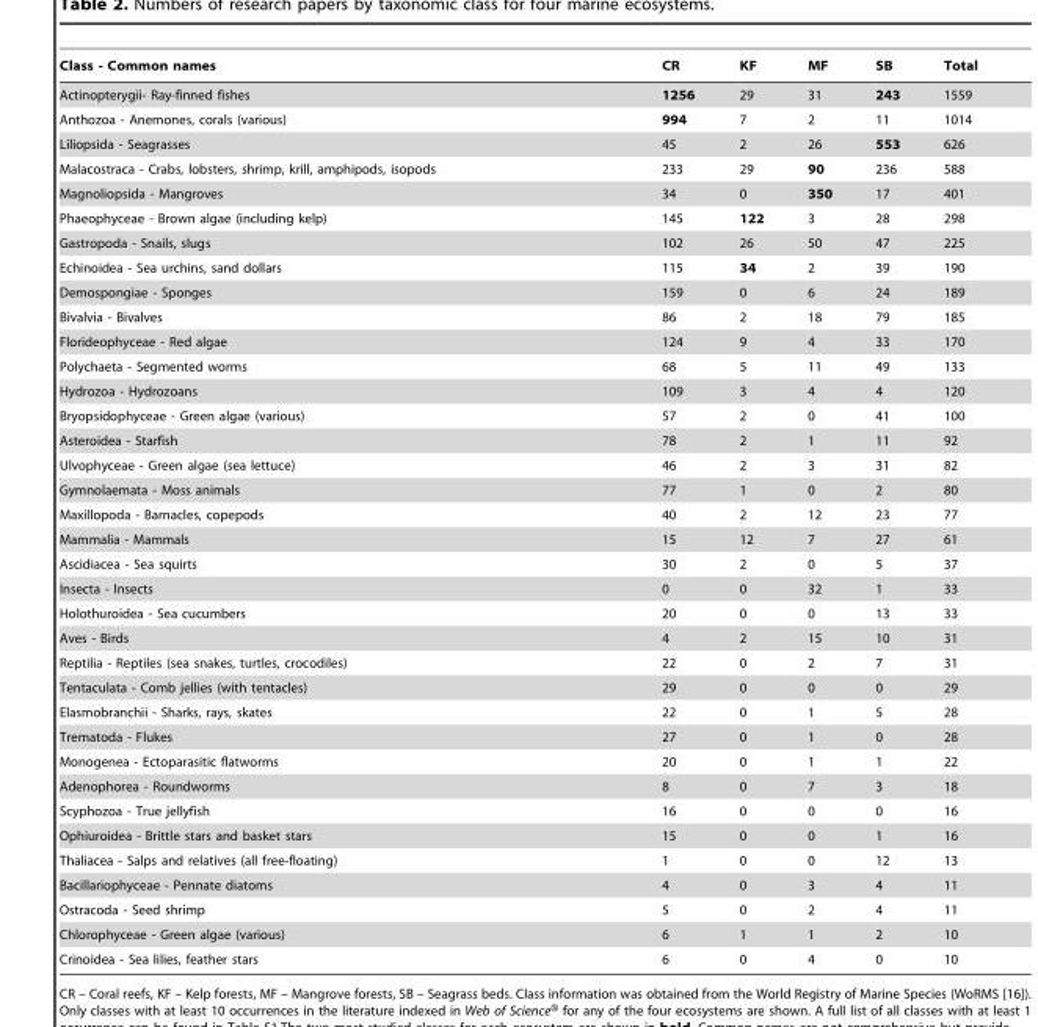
<table><thead><tr><td>Class - Common names</td><td>CR</td><td>KF</td><td>MF</td><td>SB</td><td>Total</td></tr></thead><tbody><tr><td>Actinopterygii- Ray-finned fishes</td><td>1256</td><td>29</td><td>31</td><td>243</td><td>1559</td></tr><tr><td>Anthozoa - Anemones, corals (various)</td><td>994</td><td>7</td><td>2</td><td>11</td><td>1014</td></tr><tr><td>Liliopsida - Seagrasses</td><td>45</td><td>2</td><td>26</td><td>553</td><td>626</td></tr><tr><td>Malacostraca - Crabs, lobsters, shrimp, krill, amphipods, isopods</td><td>233</td><td>29</td><td>90</td><td>236</td><td>588</td></tr><tr><td>Magnoliopsida - Mangroves</td><td>34</td><td>0</td><td>350</td><td>17</td><td>401</td></tr><tr><td>Phaeophyceae - Brown algae (including kelp)</td><td>145</td><td>122</td><td>3</td><td>28</td><td>298</td></tr><tr><td>Gastropoda - Snails, slugs</td><td>102</td><td>26</td><td>50</td><td>47</td><td>225</td></tr><tr><td>Echinoidea - Sea urchins, sand dollars</td><td>115</td><td>34</td><td>2</td><td>39</td><td>190</td></tr><tr><td>Demospongiae - Sponges</td><td>159</td><td>0</td><td>6</td><td>24</td><td>189</td></tr><tr><td>Bivalvia - Bivalves</td><td>86</td><td>2</td><td>18</td><td>79</td><td>185</td></tr><tr><td>Florideophyceae - Red algae</td><td>124</td><td>9</td><td>4</td><td>33</td><td>170</td></tr><tr><td>Polychaeta - Segmented worms</td><td>68</td><td>5</td><td>11</td><td>49</td><td>133</td></tr><tr><td>Hydrozoa - Hydrozoans</td><td>109</td><td>3</td><td>4</td><td>4</td><td>120</td></tr><tr><td>Bryopsidophyceae - Green algae (various)</td><td>57</td><td>2</td><td>0</td><td>41</td><td>100</td></tr><tr><td>Asteroidea - Starfish</td><td>78</td><td>2</td><td>1</td><td>11</td><td>92</td></tr><tr><td>Ulvophyceae - Green algae (sea lettuce)</td><td>46</td><td>2</td><td>3</td><td>31</td><td>82</td></tr><tr><td>Gymnolaemata - Moss animals</td><td>77</td><td>1</td><td>0</td><td>2</td><td>80</td></tr><tr><td>Maxillopoda - Barnacles, copepods</td><td>40</td><td>2</td><td>12</td><td>23</td><td>77</td></tr><tr><td>Mammalia - Mammals</td><td>15</td><td>12</td><td>7</td><td>27</td><td>61</td></tr><tr><td>Ascidiacea - Sea squirts</td><td>30</td><td>2</td><td>0</td><td>5</td><td>37</td></tr><tr><td>Insecta - Insects</td><td>0</td><td>0</td><td>32</td><td>1</td><td>33</td></tr><tr><td>Holothuroidea - Sea cucumbers</td><td>20</td><td>0</td><td>0</td><td>13</td><td>33</td></tr><tr><td>Aves - Birds</td><td>4</td><td>2</td><td>15</td><td>10</td><td>31</td></tr><tr><td>Reptilia - Reptiles (sea snakes, turtles, crocodiles)</td><td>22</td><td>0</td><td>2</td><td>7</td><td>31</td></tr><tr><td>Tentaculata - Comb jellies (with tentacles)</td><td>29</td><td>0</td><td>0</td><td>0</td><td>29</td></tr><tr><td>Elasmobranchii - Sharks, rays, skates</td><td>22</td><td>0</td><td>1</td><td>5</td><td>28</td></tr><tr><td>Trematoda - Flukes</td><td>27</td><td>0</td><td>1</td><td>0</td><td>28</td></tr><tr><td>Monogenea - Ectoparasitic flatworms</td><td>20</td><td>0</td><td>1</td><td>1</td><td>22</td></tr><tr><td>Adenophorea - Roundworms</td><td>8</td><td>0</td><td>7</td><td>3</td><td>18</td></tr><tr><td>Scyphozoa - True jellyfish</td><td>16</td><td>0</td><td>0</td><td>0</td><td>16</td></tr><tr><td>Ophiuroidea - Brittle stars and basket stars</td><td>15</td><td>0</td><td>0</td><td>1</td><td>16</td></tr><tr><td>Thaliacea - Salps and relatives (all free-floating)</td><td>1</td><td>0</td><td>0</td><td>12</td><td>13</td></tr><tr><td>Bacillariophyceae - Pennate diatoms</td><td>4</td><td>0</td><td>3</td><td>4</td><td>11</td></tr><tr><td>Ostracoda - Seed shrimp</td><td>5</td><td>0</td><td>2</td><td>4</td><td>11</td></tr><tr><td>Chlorophyceae - Green algae (various)</td><td>6</td><td>1</td><td>1</td><td>2</td><td>10</td></tr><tr><td>Crinoidea - Sea lilies, feather stars</td><td>6</td><td>0</td><td>4</td><td>0</td><td>10</td></tr></tbody></table>